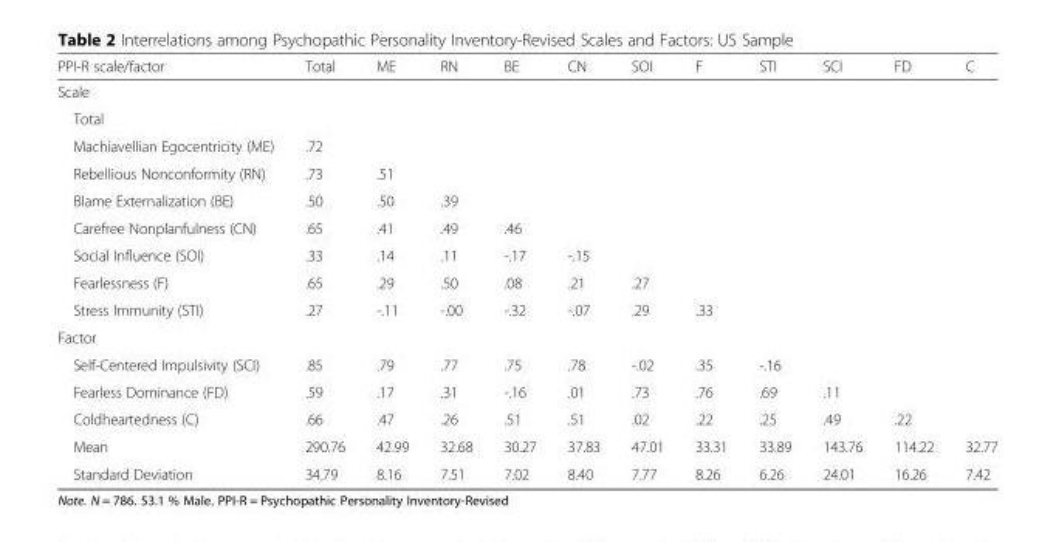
<table><thead><tr><td>PPI-R scale/factor</td><td>Total</td><td>ME</td><td>RN</td><td>BE</td><td>CN</td><td>SOI</td><td>F</td><td>STI</td><td>SCI</td><td>FD</td><td>C</td></tr></thead><tbody><tr><td colspan="12">Scale</td></tr><tr><td colspan="12">Total</td></tr><tr><td>Machiavellian Egocentricity (ME)</td><td>.72</td><td></td><td></td><td></td><td></td><td></td><td></td><td></td><td></td><td></td><td></td></tr><tr><td>Rebellious Nonconformity (RN)</td><td>.73</td><td>.51</td><td></td><td></td><td></td><td></td><td></td><td></td><td></td><td></td><td></td></tr><tr><td>Blame Externalization (BE)</td><td>.50</td><td>.50</td><td>.39</td><td></td><td></td><td></td><td></td><td></td><td></td><td></td><td></td></tr><tr><td>Carefree Nonplanfulness (CN)</td><td>.65</td><td>.41</td><td>.49</td><td>.46</td><td></td><td></td><td></td><td></td><td></td><td></td><td></td></tr><tr><td>Social Influence (SOI)</td><td>.33</td><td>.14</td><td>.11</td><td>-.17</td><td>-.15</td><td></td><td></td><td></td><td></td><td></td><td></td></tr><tr><td>Fearlessness (F)</td><td>.65</td><td>.29</td><td>.50</td><td>.08</td><td>.21</td><td>.27</td><td></td><td></td><td></td><td></td><td></td></tr><tr><td>Stress Immunity (STI)</td><td>.27</td><td>-.11</td><td>-.00</td><td>-.32</td><td>-.07</td><td>.29</td><td>.33</td><td></td><td></td><td></td><td></td></tr><tr><td colspan="12">Factor</td></tr><tr><td>Self-Centered Impulsivity (SCI)</td><td>.85</td><td>.79</td><td>.77</td><td>.75</td><td>.78</td><td>-.02</td><td>.35</td><td>-.16</td><td></td><td></td><td></td></tr><tr><td>Fearless Dominance (FD)</td><td>.59</td><td>.17</td><td>.31</td><td>-.16</td><td>.01</td><td>.73</td><td>.76</td><td>.69</td><td>.11</td><td></td><td></td></tr><tr><td>Coldheartedness (C)</td><td>.66</td><td>.47</td><td>.26</td><td>.51</td><td>.51</td><td>.02</td><td>.22</td><td>.25</td><td>.49</td><td>.22</td><td></td></tr><tr><td>Mean</td><td>290.76</td><td>42.99</td><td>32.68</td><td>30.27</td><td>37.83</td><td>47.01</td><td>33.31</td><td>33.89</td><td>143.76</td><td>114.22</td><td>32.77</td></tr><tr><td>Standard Deviation</td><td>34.79</td><td>8.16</td><td>7.51</td><td>7.02</td><td>8.40</td><td>7.77</td><td>8.26</td><td>6.26</td><td>24.01</td><td>16.26</td><td>7.42</td></tr></tbody></table>